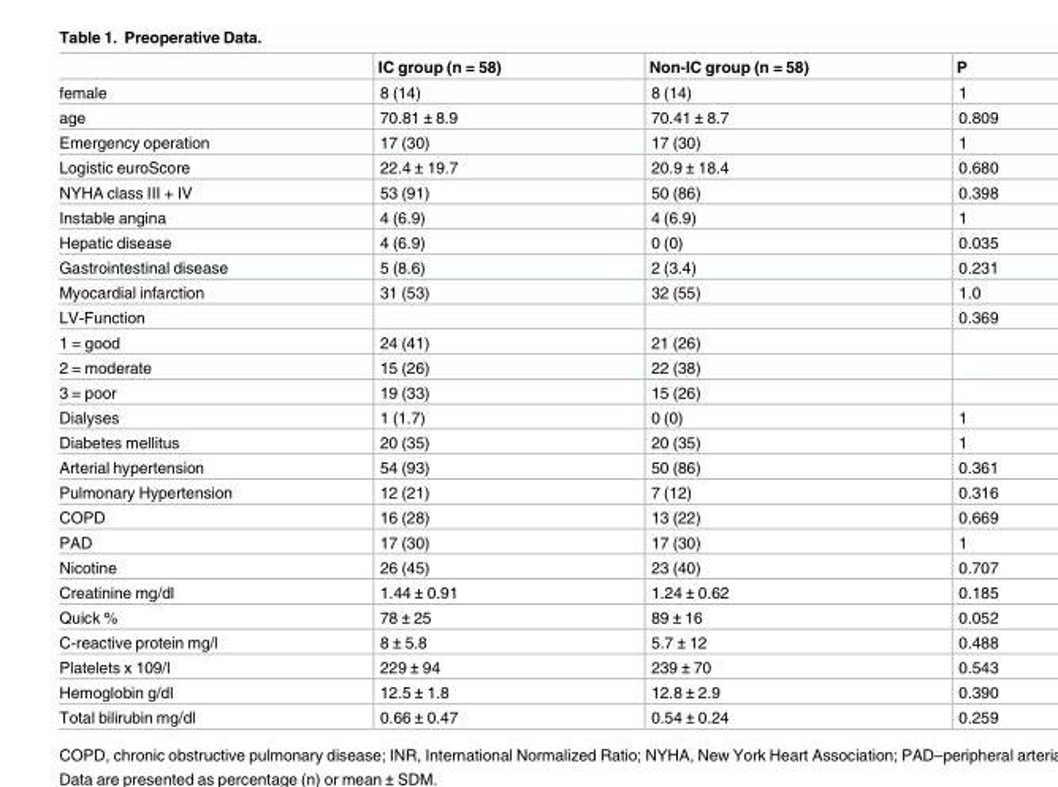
<table><thead><tr><td></td><td>IC group (n = 58)</td><td>Non-IC group (n = 58)</td><td>P</td></tr></thead><tbody><tr><td>female</td><td>8 (14)</td><td>8 (14)</td><td>1</td></tr><tr><td>age</td><td>70.81 ± 8.9</td><td>70.41 ± 8.7</td><td>0.809</td></tr><tr><td>Emergency operation</td><td>17 (30)</td><td>17 (30)</td><td>1</td></tr><tr><td>Logistic euroScore</td><td>22.4 ± 19.7</td><td>20.9 ± 18.4</td><td>0.680</td></tr><tr><td>NYHA class III + IV</td><td>53 (91)</td><td>50 (86)</td><td>0.398</td></tr><tr><td>Instable angina</td><td>4 (6.9)</td><td>4 (6.9)</td><td>1</td></tr><tr><td>Hepatic disease</td><td>4 (6.9)</td><td>0 (0)</td><td>0.035</td></tr><tr><td>Gastrointestinal disease</td><td>5 (8.6)</td><td>2 (3.4)</td><td>0.231</td></tr><tr><td>Myocardial infarction</td><td>31 (53)</td><td>32 (55)</td><td>1.0</td></tr><tr><td>LV-Function</td><td></td><td></td><td>0.369</td></tr><tr><td>1 = good</td><td>24 (41)</td><td>21 (26)</td><td></td></tr><tr><td>2 = moderate</td><td>15 (26)</td><td>22 (38)</td><td></td></tr><tr><td>3 = poor</td><td>19 (33)</td><td>15 (26)</td><td></td></tr><tr><td>Dialyses</td><td>1 (1.7)</td><td>0 (0)</td><td>1</td></tr><tr><td>Diabetes mellitus</td><td>20 (35)</td><td>20 (35)</td><td>1</td></tr><tr><td>Arterial hypertension</td><td>54 (93)</td><td>50 (86)</td><td>0.361</td></tr><tr><td>Pulmonary Hypertension</td><td>12 (21)</td><td>7 (12)</td><td>0.316</td></tr><tr><td>COPD</td><td>16 (28)</td><td>13 (22)</td><td>0.669</td></tr><tr><td>PAD</td><td>17 (30)</td><td>17 (30)</td><td>1</td></tr><tr><td>Nicotine</td><td>26 (45)</td><td>23 (40)</td><td>0.707</td></tr><tr><td>Creatinine mg/dl</td><td>1.44 ± 0.91</td><td>1.24 ± 0.62</td><td>0.185</td></tr><tr><td>Quick %</td><td>78 ± 25</td><td>89 ± 16</td><td>0.052</td></tr><tr><td>C-reactive protein mg/l</td><td>8 ± 5.8</td><td>5.7 ± 12</td><td>0.488</td></tr><tr><td>Platelets x 109/l</td><td>229 ± 94</td><td>239 ± 70</td><td>0.543</td></tr><tr><td>Hemoglobin g/dl</td><td>12.5 ± 1.8</td><td>12.8 ± 2.9</td><td>0.390</td></tr><tr><td>Total bilirubin mg/dl</td><td>0.66 ± 0.47</td><td>0.54 ± 0.24</td><td>0.259</td></tr></tbody></table>